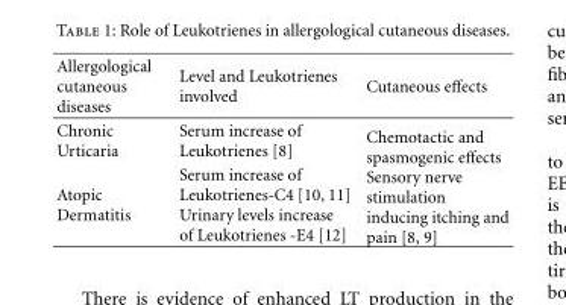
<table><thead><tr><td>Allergological cutaneous diseases</td><td>Level and Leukotrienes involved</td><td>Cutaneous effects</td></tr></thead><tbody><tr><td>Chronic Urticaria</td><td>Serum increase of Leukotrienes [8]</td><td rowspan="2">Chemotactic and spasmogenic effects Sensory nerve stimulation inducing itching and pain [8, 9]</td></tr><tr><td>Atopic Dermatitis</td><td>Serum increase of Leukotrienes-C4 [10, 11] Urinary levels increase of Leukotrienes -E4 [12]</td></tr></tbody></table>